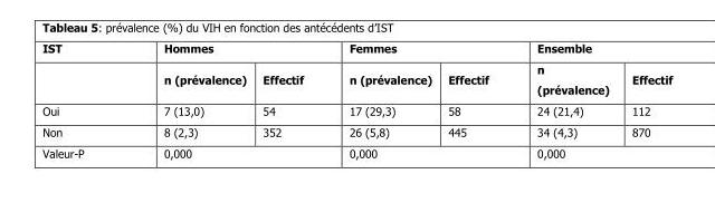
<table><thead><tr><td rowspan="2">IST</td><td colspan="2">Hommes</td><td colspan="2">Femmes</td><td colspan="2">Ensemble</td></tr><tr><td>n (prévalence)</td><td>Effectif</td><td>n (prévalence)</td><td>Effectif</td><td>n (prévalence)</td><td>Effectif</td></tr></thead><tbody><tr><td>Oui</td><td>7 (13,0)</td><td>54</td><td>17 (29,3)</td><td>58</td><td>24 (21,4)</td><td>112</td></tr><tr><td>Non</td><td>8 (2,3)</td><td>352</td><td>26 (5,8)</td><td>445</td><td>34 (4,3)</td><td>870</td></tr><tr><td>Valeur-P</td><td colspan="2">0,000</td><td colspan="2">0,000</td><td colspan="2">0,000</td></tr></tbody></table>